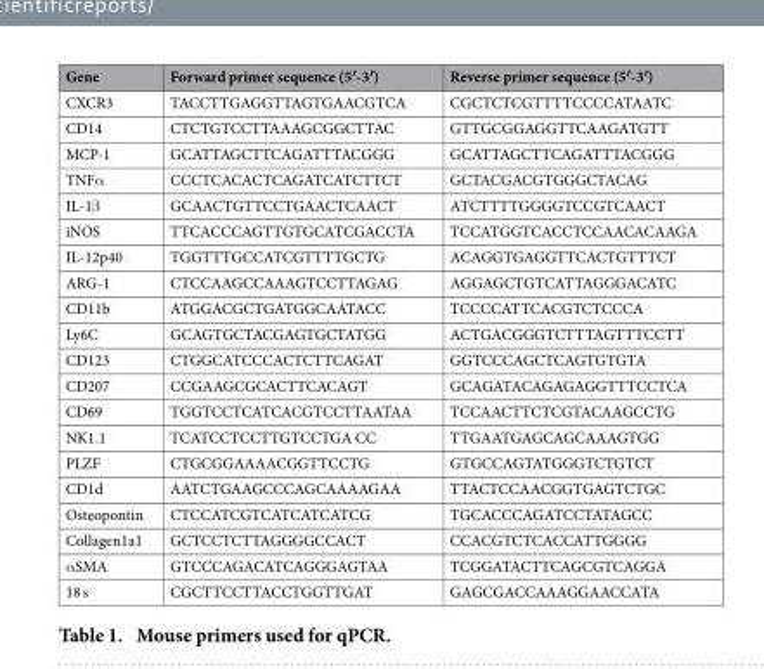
<table><thead><tr><td>Gene</td><td>Forward primer sequence (5′-3′)</td><td>Reverse primer sequence (5′-3′)</td></tr></thead><tbody><tr><td>CXCR3</td><td>TACCTTGAGGTTAGTGAACGTCA</td><td>CGCTCTCGTTTTCCCCATAATC</td></tr><tr><td>CD14</td><td>CTCTGTCCTTAAAGCGGCTTAC</td><td>GTTGCGGAGGTTCAAGATGTT</td></tr><tr><td>MCP-1</td><td>GCATTAGCTTCAGATTTACGGG</td><td>GCATTAGCTTCAGATTTACGGG</td></tr><tr><td>TNFα</td><td>CCCTCACACTCAGATCATCTTCT</td><td>GCTACGACGTGGGCTACAG</td></tr><tr><td>IL-1β</td><td>GCAACTGTTCCTGAACTCAACT</td><td>ATCTTTTGGGGTCCGTCAACT</td></tr><tr><td>iNOS</td><td>TTCACCCAGTTGTGCATCGACCTA</td><td>TCCATGGTCACCTCCAACACAAGA</td></tr><tr><td>IL-12p40</td><td>TGGTTTGCCATCGTTTTGCTG</td><td>ACAGGTGAGGTTCACTGTTTCT</td></tr><tr><td>ARG-1</td><td>CTCCAAGCCAAAGTCCTTAGAG</td><td>AGGAGCTGTCATTAGGGACATC</td></tr><tr><td>CD11b</td><td>ATGGACGCTGATGGCAATACC</td><td>TCCCCATTCACGTCTCCCA</td></tr><tr><td>Ly6C</td><td>GCAGTGCTACGAGTGCTATGG</td><td>ACTGACGGGTCTTTAGTTTCCTT</td></tr><tr><td>CD123</td><td>CTGGCATCCCACTCTTCAGAT</td><td>GGTCCCAGCTCAGTGTGTA</td></tr><tr><td>CD207</td><td>CCGAAGCGCACTTCACAGT</td><td>GCAGATACAGAGAGGTTTCCTCA</td></tr><tr><td>CD69</td><td>TGGTCCTCATCACGTCCTTAATAA</td><td>TCCAACTTCTCGTACAAGCCTG</td></tr><tr><td>NK1.1</td><td>TCATCCTCCTTGTCCTGA CC</td><td>TTGAATGAGCAGCAAAGTGG</td></tr><tr><td>PLZF</td><td>CTGCGGAAAACGGTTCCTG</td><td>GTGCCAGTATGGGTCTGTCT</td></tr><tr><td>CD1d</td><td>AATCTGAAGCCCAGCAAAAGAA</td><td>TTACTCCAACGGTGAGTCTGC</td></tr><tr><td>Osteopontin</td><td>CTCCATCGTCATCATCATCG</td><td>TGCACCCAGATCCTATAGCC</td></tr><tr><td>Collagen1a1</td><td>GCTCCTCTTAGGGGCCACT</td><td>CCACGTCTCACCATTGGGG</td></tr><tr><td>α SMA</td><td>GTCCCAGACATCAGGGAGTAA</td><td>TCGGATACTTCAGCGTCAGGA</td></tr><tr><td>18 s</td><td>CGCTTCCTTACCTGGTTGAT</td><td>GAGCGACCAAAGGAACCATA</td></tr></tbody></table>